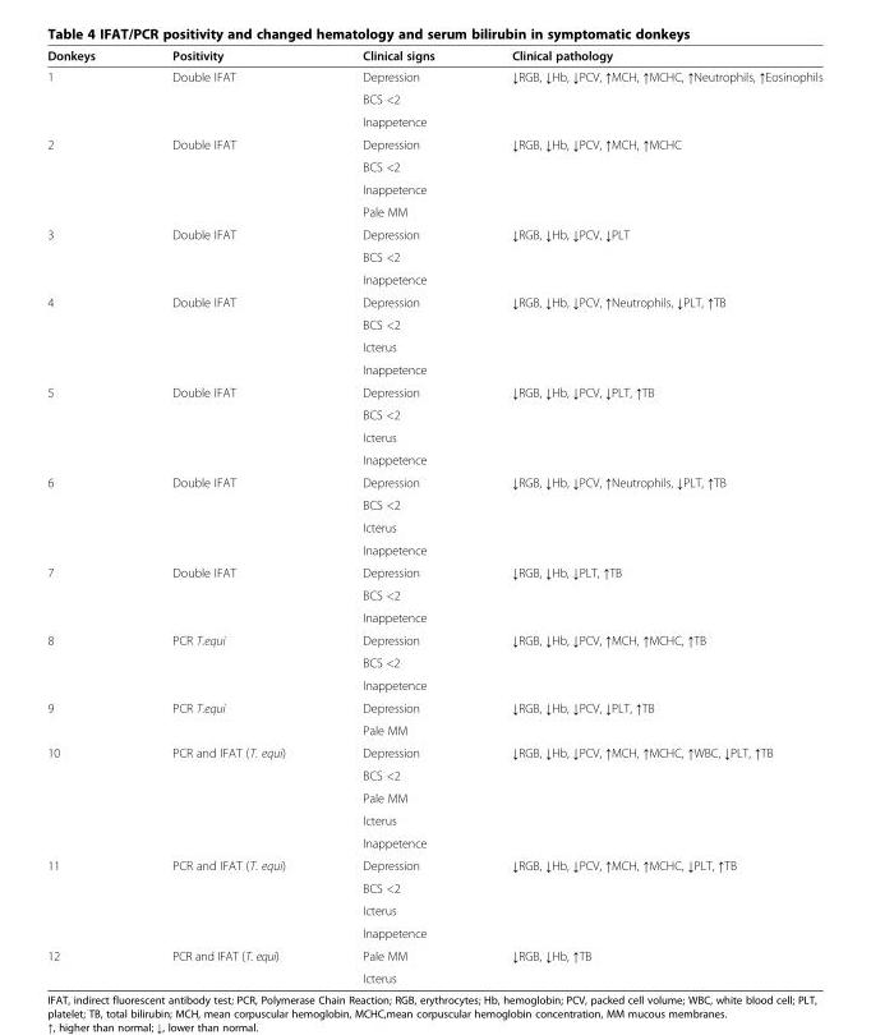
<table><thead><tr><td>Donkeys</td><td>Positivity</td><td>Clinical signs</td><td>Clinical pathology</td></tr></thead><tbody><tr><td rowspan="3">1</td><td rowspan="3">Double IFAT</td><td>Depression</td><td rowspan="3">↓RGB, ↓Hb, ↓PCV, ↑MCH, ↑MCHC, ↑Neutrophils, ↑Eosinophils</td></tr><tr><td>BCS &lt;2</td></tr><tr><td>Inappetence</td></tr><tr><td rowspan="4">2</td><td rowspan="4">Double IFAT</td><td>Depression</td><td rowspan="4">↓RGB, ↓Hb, ↓PCV, ↑MCH, ↑MCHC</td></tr><tr><td>BCS &lt;2</td></tr><tr><td>Inappetence</td></tr><tr><td>Pale MM</td></tr><tr><td rowspan="3">3</td><td rowspan="3">Double IFAT</td><td>Depression</td><td rowspan="3">↓RGB, ↓Hb, ↓PCV, ↓PLT</td></tr><tr><td>BCS &lt;2</td></tr><tr><td>Inappetence</td></tr><tr><td rowspan="4">4</td><td rowspan="4">Double IFAT</td><td>Depression</td><td rowspan="4">↓RGB, ↓Hb, ↓PCV, ↑Neutrophils, ↓PLT, ↑TB</td></tr><tr><td>BCS &lt;2</td></tr><tr><td>Icterus</td></tr><tr><td>Inappetence</td></tr><tr><td rowspan="4">5</td><td rowspan="4">Double IFAT</td><td>Depression</td><td rowspan="4">↓RGB, ↓Hb, ↓PCV, ↓PLT, ↑TB</td></tr><tr><td>BCS &lt;2</td></tr><tr><td>Icterus</td></tr><tr><td>Inappetence</td></tr><tr><td rowspan="4">6</td><td rowspan="4">Double IFAT</td><td>Depression</td><td rowspan="4">↓RGB, ↓Hb, ↓PCV, ↑Neutrophils, ↓PLT, ↑TB</td></tr><tr><td>BCS &lt;2</td></tr><tr><td>Icterus</td></tr><tr><td>Inappetence</td></tr><tr><td rowspan="3">7</td><td rowspan="3">Double IFAT</td><td>Depression</td><td rowspan="3">↓RGB, ↓Hb, ↓PLT, ↑TB</td></tr><tr><td>BCS &lt;2</td></tr><tr><td>Inappetence</td></tr><tr><td rowspan="3">8</td><td rowspan="3">PCR T.equi</td><td>Depression</td><td rowspan="3">↓RGB, ↓Hb, ↓PCV, ↑MCH, ↑MCHC, ↑TB</td></tr><tr><td>BCS &lt;2</td></tr><tr><td>Inappetence</td></tr><tr><td rowspan="2">9</td><td rowspan="2">PCR T.equi</td><td>Depression</td><td rowspan="2">↓RGB, ↓Hb, ↓PCV, ↓PLT, ↑TB</td></tr><tr><td>Pale MM</td></tr><tr><td rowspan="5">10</td><td rowspan="5">PCR and IFAT (T. equi)</td><td>Depression</td><td rowspan="5">↓RGB, ↓Hb, ↓PCV, ↑MCH, ↑MCHC, ↑WBC, ↓PLT, ↑TB</td></tr><tr><td>BCS &lt;2</td></tr><tr><td>Pale MM</td></tr><tr><td>Icterus</td></tr><tr><td>Inappetence</td></tr><tr><td rowspan="4">11</td><td rowspan="4">PCR and IFAT (T. equi)</td><td>Depression</td><td rowspan="4">↓RGB, ↓Hb, ↓PCV, ↑MCH, ↑MCHC, ↓PLT, ↑TB</td></tr><tr><td>BCS &lt;2</td></tr><tr><td>Icterus</td></tr><tr><td>Inappetence</td></tr><tr><td rowspan="2">12</td><td rowspan="2">PCR and IFAT (T. equi)</td><td>Pale MM</td><td rowspan="2">↓RGB, ↓Hb, ↑TB</td></tr><tr><td>Icterus</td></tr></tbody></table>